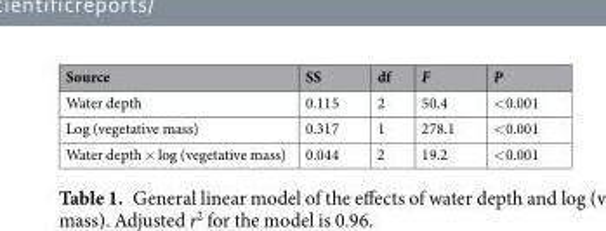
<table><thead><tr><td>Source</td><td>SS</td><td>df</td><td>F</td><td>P</td></tr></thead><tbody><tr><td>Water depth</td><td>0.115</td><td>2</td><td>50.4</td><td>&lt;0.001</td></tr><tr><td>Log (vegetative mass)</td><td>0.317</td><td>1</td><td>278.1</td><td>&lt;0.001</td></tr><tr><td>Water depth × log (vegetative mass)</td><td>0.044</td><td>2</td><td>19.2</td><td>&lt;0.001</td></tr></tbody></table>